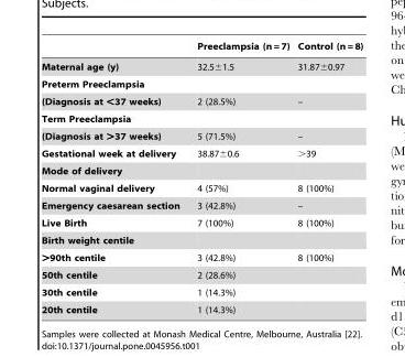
<table><thead><tr><td></td><td>Preeclampsia (n = 7)</td><td>Control (n = 8)</td></tr></thead><tbody><tr><td>Maternal age (y)</td><td>32.5±1.5</td><td>31.87±0.97</td></tr><tr><td colspan="3">Preterm Preeclampsia</td></tr><tr><td>(Diagnosis at &lt;37 weeks)</td><td>2 (28.5%)</td><td>–</td></tr><tr><td colspan="3">Term Preeclampsia</td></tr><tr><td>(Diagnosis at &gt;37 weeks)</td><td>5 (71.5%)</td><td>–</td></tr><tr><td>Gestational week at delivery</td><td>38.87±0.6</td><td>&gt;39</td></tr><tr><td colspan="3">Mode of delivery</td></tr><tr><td>Normal vaginal delivery</td><td>4 (57%)</td><td>8 (100%)</td></tr><tr><td>Emergency caesarean section</td><td>3 (42.8%)</td><td>–</td></tr><tr><td>Live Birth</td><td>7 (100%)</td><td>8 (100%)</td></tr><tr><td colspan="3">Birth weight centile</td></tr><tr><td>&gt;90th centile</td><td>3 (42.8%)</td><td>8 (100%)</td></tr><tr><td>50th centile</td><td>2 (28.6%)</td><td></td></tr><tr><td>30th centile</td><td>1 (14.3%)</td><td></td></tr><tr><td>20th centile</td><td>1 (14.3%)</td><td></td></tr></tbody></table>